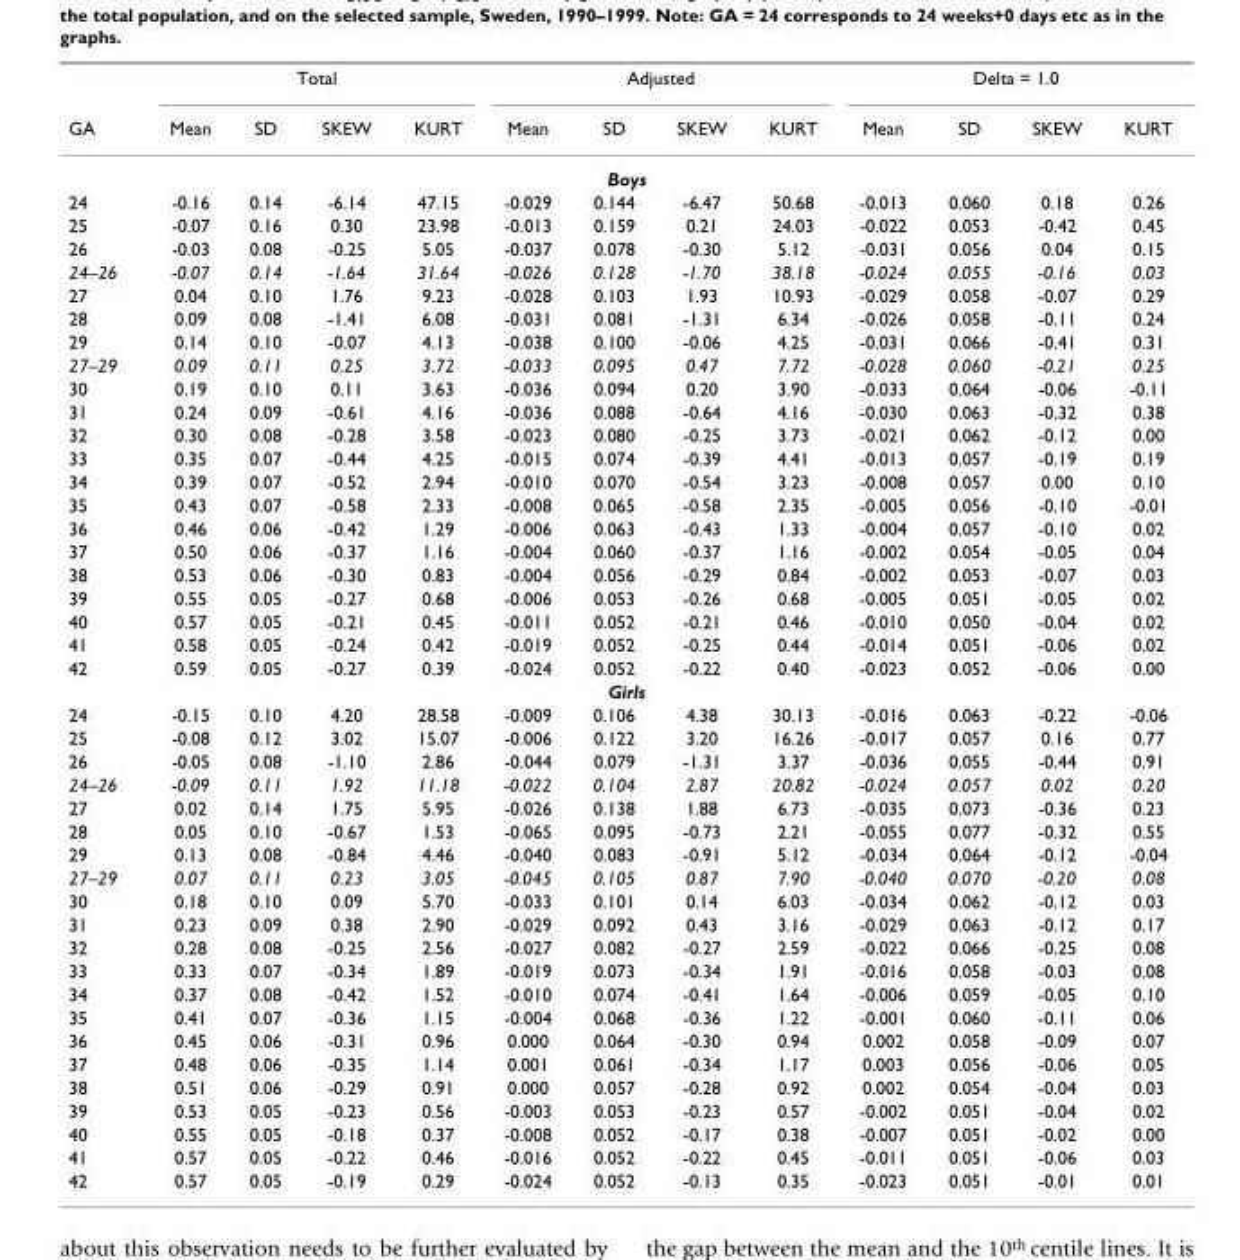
<table><thead><tr><td rowspan="2">GA</td><td colspan="4">Total</td><td colspan="4">Adjusted</td><td colspan="4">Delta = 1.0</td></tr><tr><td>Mean</td><td>SD</td><td>SKEW</td><td>KURT</td><td>Mean</td><td>SD</td><td>SKEW</td><td>KURT</td><td>Mean</td><td>SD</td><td>SKEW</td><td>KURT</td></tr></thead><tbody><tr><td colspan="13">Boys</td></tr><tr><td>24</td><td>-0.16</td><td>0.14</td><td>-6.14</td><td>47.15</td><td>-0.029</td><td>0.144</td><td>-6.47</td><td>50.68</td><td>-0.013</td><td>0.060</td><td>0.18</td><td>0.26</td></tr><tr><td>25</td><td>-0.07</td><td>0.16</td><td>0.30</td><td>23.98</td><td>-0.013</td><td>0.159</td><td>0.21</td><td>24.03</td><td>-0.022</td><td>0.053</td><td>-0.42</td><td>0.45</td></tr><tr><td>26</td><td>-0.03</td><td>0.08</td><td>-0.25</td><td>5.05</td><td>-0.037</td><td>0.078</td><td>-0.30</td><td>5.12</td><td>-0.031</td><td>0.056</td><td>0.04</td><td>0.15</td></tr><tr><td>24–26</td><td>-0.07</td><td>0.14</td><td>-1.64</td><td>31.64</td><td>-0.026</td><td>0.128</td><td>-1.70</td><td>38.18</td><td>-0.024</td><td>0.055</td><td>-0.16</td><td>0.03</td></tr><tr><td>27</td><td>0.04</td><td>0.10</td><td>1.76</td><td>9.23</td><td>-0.028</td><td>0.103</td><td>1.93</td><td>10.93</td><td>-0.029</td><td>0.058</td><td>-0.07</td><td>0.29</td></tr><tr><td>28</td><td>0.09</td><td>0.08</td><td>-1.41</td><td>6.08</td><td>-0.031</td><td>0.081</td><td>-1.31</td><td>6.34</td><td>-0.026</td><td>0.058</td><td>-0.11</td><td>0.24</td></tr><tr><td>29</td><td>0.14</td><td>0.10</td><td>-0.07</td><td>4.13</td><td>-0.038</td><td>0.100</td><td>-0.06</td><td>4.25</td><td>-0.031</td><td>0.066</td><td>-0.41</td><td>0.31</td></tr><tr><td>27–29</td><td>0.09</td><td>0.11</td><td>0.25</td><td>3.72</td><td>-0.033</td><td>0.095</td><td>0.47</td><td>7.72</td><td>-0.028</td><td>0.060</td><td>-0.21</td><td>0.25</td></tr><tr><td>30</td><td>0.19</td><td>0.10</td><td>0.11</td><td>3.63</td><td>-0.036</td><td>0.094</td><td>0.20</td><td>3.90</td><td>-0.033</td><td>0.064</td><td>-0.06</td><td>-0.11</td></tr><tr><td>31</td><td>0.24</td><td>0.09</td><td>-0.61</td><td>4.16</td><td>-0.036</td><td>0.088</td><td>-0.64</td><td>4.16</td><td>-0.030</td><td>0.063</td><td>-0.32</td><td>0.38</td></tr><tr><td>32</td><td>0.30</td><td>0.08</td><td>-0.28</td><td>3.58</td><td>-0.023</td><td>0.080</td><td>-0.25</td><td>3.73</td><td>-0.021</td><td>0.062</td><td>-0.12</td><td>0.00</td></tr><tr><td>33</td><td>0.35</td><td>0.07</td><td>-0.44</td><td>4.25</td><td>-0.015</td><td>0.074</td><td>-0.39</td><td>4.41</td><td>-0.013</td><td>0.057</td><td>-0.19</td><td>0.19</td></tr><tr><td>34</td><td>0.39</td><td>0.07</td><td>-0.52</td><td>2.94</td><td>-0.010</td><td>0.070</td><td>-0.54</td><td>3.23</td><td>-0.008</td><td>0.057</td><td>0.00</td><td>0.10</td></tr><tr><td>35</td><td>0.43</td><td>0.07</td><td>-0.58</td><td>2.33</td><td>-0.008</td><td>0.065</td><td>-0.58</td><td>2.35</td><td>-0.005</td><td>0.056</td><td>-0.10</td><td>-0.01</td></tr><tr><td>36</td><td>0.46</td><td>0.06</td><td>-0.42</td><td>1.29</td><td>-0.006</td><td>0.063</td><td>-0.43</td><td>1.33</td><td>-0.004</td><td>0.057</td><td>-0.10</td><td>0.02</td></tr><tr><td>37</td><td>0.50</td><td>0.06</td><td>-0.37</td><td>1.16</td><td>-0.004</td><td>0.060</td><td>-0.37</td><td>1.16</td><td>-0.002</td><td>0.054</td><td>-0.05</td><td>0.04</td></tr><tr><td>38</td><td>0.53</td><td>0.06</td><td>-0.30</td><td>0.83</td><td>-0.004</td><td>0.056</td><td>-0.29</td><td>0.84</td><td>-0.002</td><td>0.053</td><td>-0.07</td><td>0.03</td></tr><tr><td>39</td><td>0.55</td><td>0.05</td><td>-0.27</td><td>0.68</td><td>-0.006</td><td>0.053</td><td>-0.26</td><td>0.68</td><td>-0.005</td><td>0.051</td><td>-0.05</td><td>0.02</td></tr><tr><td>40</td><td>0.57</td><td>0.05</td><td>-0.21</td><td>0.45</td><td>-0.011</td><td>0.052</td><td>-0.21</td><td>0.46</td><td>-0.010</td><td>0.050</td><td>-0.04</td><td>0.02</td></tr><tr><td>41</td><td>0.58</td><td>0.05</td><td>-0.24</td><td>0.42</td><td>-0.019</td><td>0.052</td><td>-0.25</td><td>0.44</td><td>-0.014</td><td>0.051</td><td>-0.06</td><td>0.02</td></tr><tr><td>42</td><td>0.59</td><td>0.05</td><td>-0.27</td><td>0.39</td><td>-0.024</td><td>0.052</td><td>-0.22</td><td>0.40</td><td>-0.023</td><td>0.052</td><td>-0.06</td><td>0.00</td></tr><tr><td colspan="13">Girls</td></tr><tr><td>24</td><td>-0.15</td><td>0.10</td><td>4.20</td><td>28.58</td><td>-0.009</td><td>0.106</td><td>4.38</td><td>30.13</td><td>-0.016</td><td>0.063</td><td>-0.22</td><td>-0.06</td></tr><tr><td>25</td><td>-0.08</td><td>0.12</td><td>3.02</td><td>15.07</td><td>-0.006</td><td>0.122</td><td>3.20</td><td>16.26</td><td>-0.017</td><td>0.057</td><td>0.16</td><td>0.77</td></tr><tr><td>26</td><td>-0.05</td><td>0.08</td><td>-1.10</td><td>2.86</td><td>-0.044</td><td>0.079</td><td>-1.31</td><td>3.37</td><td>-0.036</td><td>0.055</td><td>-0.44</td><td>0.91</td></tr><tr><td>24–26</td><td>-0.09</td><td>0.11</td><td>1.92</td><td>11.18</td><td>-0.022</td><td>0.104</td><td>2.87</td><td>20.82</td><td>-0.024</td><td>0.057</td><td>0.02</td><td>0.20</td></tr><tr><td>27</td><td>0.02</td><td>0.14</td><td>1.75</td><td>5.95</td><td>-0.026</td><td>0.138</td><td>1.88</td><td>6.73</td><td>-0.035</td><td>0.073</td><td>-0.36</td><td>0.23</td></tr><tr><td>28</td><td>0.05</td><td>0.10</td><td>-0.67</td><td>1.53</td><td>-0.065</td><td>0.095</td><td>-0.73</td><td>2.21</td><td>-0.055</td><td>0.077</td><td>-0.32</td><td>0.55</td></tr><tr><td>29</td><td>0.13</td><td>0.08</td><td>-0.84</td><td>4.46</td><td>-0.040</td><td>0.083</td><td>-0.91</td><td>5.12</td><td>-0.034</td><td>0.064</td><td>-0.12</td><td>-0.04</td></tr><tr><td>27–29</td><td>0.07</td><td>0.11</td><td>0.23</td><td>3.05</td><td>-0.045</td><td>0.105</td><td>0.87</td><td>7.90</td><td>-0.040</td><td>0.070</td><td>-0.20</td><td>0.08</td></tr><tr><td>30</td><td>0.18</td><td>0.10</td><td>0.09</td><td>5.70</td><td>-0.033</td><td>0.101</td><td>0.14</td><td>6.03</td><td>-0.034</td><td>0.062</td><td>-0.12</td><td>0.03</td></tr><tr><td>31</td><td>0.23</td><td>0.09</td><td>0.38</td><td>2.90</td><td>-0.029</td><td>0.092</td><td>0.43</td><td>3.16</td><td>-0.029</td><td>0.063</td><td>-0.12</td><td>0.17</td></tr><tr><td>32</td><td>0.28</td><td>0.08</td><td>-0.25</td><td>2.56</td><td>-0.027</td><td>0.082</td><td>-0.27</td><td>2.59</td><td>-0.022</td><td>0.066</td><td>-0.25</td><td>0.08</td></tr><tr><td>33</td><td>0.33</td><td>0.07</td><td>-0.34</td><td>1.89</td><td>-0.019</td><td>0.073</td><td>-0.34</td><td>1.91</td><td>-0.016</td><td>0.058</td><td>-0.03</td><td>0.08</td></tr><tr><td>34</td><td>0.37</td><td>0.08</td><td>-0.42</td><td>1.52</td><td>-0.010</td><td>0.074</td><td>-0.41</td><td>1.64</td><td>-0.006</td><td>0.059</td><td>-0.05</td><td>0.10</td></tr><tr><td>35</td><td>0.41</td><td>0.07</td><td>-0.36</td><td>1.15</td><td>-0.004</td><td>0.068</td><td>-0.36</td><td>1.22</td><td>-0.001</td><td>0.060</td><td>-0.11</td><td>0.06</td></tr><tr><td>36</td><td>0.45</td><td>0.06</td><td>-0.31</td><td>0.96</td><td>0.000</td><td>0.064</td><td>-0.30</td><td>0.94</td><td>0.002</td><td>0.058</td><td>-0.09</td><td>0.07</td></tr><tr><td>37</td><td>0.48</td><td>0.06</td><td>-0.35</td><td>1.14</td><td>0.001</td><td>0.061</td><td>-0.34</td><td>1.17</td><td>0.003</td><td>0.056</td><td>-0.06</td><td>0.05</td></tr><tr><td>38</td><td>0.51</td><td>0.06</td><td>-0.29</td><td>0.91</td><td>0.000</td><td>0.057</td><td>-0.28</td><td>0.92</td><td>0.002</td><td>0.054</td><td>-0.04</td><td>0.03</td></tr><tr><td>39</td><td>0.53</td><td>0.05</td><td>-0.23</td><td>0.56</td><td>-0.003</td><td>0.053</td><td>-0.23</td><td>0.57</td><td>-0.002</td><td>0.051</td><td>-0.04</td><td>0.02</td></tr><tr><td>40</td><td>0.55</td><td>0.05</td><td>-0.18</td><td>0.37</td><td>-0.008</td><td>0.052</td><td>-0.17</td><td>0.38</td><td>-0.007</td><td>0.051</td><td>-0.02</td><td>0.00</td></tr><tr><td>41</td><td>0.57</td><td>0.05</td><td>-0.22</td><td>0.46</td><td>-0.016</td><td>0.052</td><td>-0.22</td><td>0.45</td><td>-0.011</td><td>0.051</td><td>-0.06</td><td>0.03</td></tr><tr><td>42</td><td>0.57</td><td>0.05</td><td>-0.19</td><td>0.29</td><td>-0.024</td><td>0.052</td><td>-0.13</td><td>0.35</td><td>-0.023</td><td>0.051</td><td>-0.01</td><td>0.01</td></tr></tbody></table>